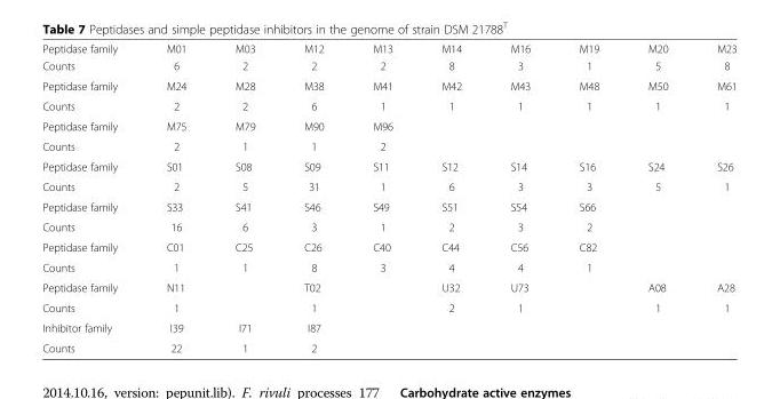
<table><thead><tr><td>Peptidase family</td><td>M01</td><td>M03</td><td>M12</td><td>M13</td><td>M14</td><td>M16</td><td>M19</td><td>M20</td><td>M23</td></tr></thead><tbody><tr><td>Counts</td><td>6</td><td>2</td><td>2</td><td>2</td><td>8</td><td>3</td><td>1</td><td>5</td><td>8</td></tr><tr><td>Peptidase family</td><td>M24</td><td>M28</td><td>M38</td><td>M41</td><td>M42</td><td>M43</td><td>M48</td><td>M50</td><td>M61</td></tr><tr><td>Counts</td><td>2</td><td>2</td><td>6</td><td>1</td><td>1</td><td>1</td><td>1</td><td>1</td><td>1</td></tr><tr><td>Peptidase family</td><td>M75</td><td>M79</td><td>M90</td><td>M96</td><td></td><td></td><td></td><td></td><td></td></tr><tr><td>Counts</td><td>2</td><td>1</td><td>1</td><td>2</td><td></td><td></td><td></td><td></td><td></td></tr><tr><td>Peptidase family</td><td>S01</td><td>S08</td><td>S09</td><td>S11</td><td>S12</td><td>S14</td><td>S16</td><td>S24</td><td>S26</td></tr><tr><td>Counts</td><td>2</td><td>5</td><td>31</td><td>1</td><td>6</td><td>3</td><td>3</td><td>5</td><td>1</td></tr><tr><td>Peptidase family</td><td>S33</td><td>S41</td><td>S46</td><td>S49</td><td>S51</td><td>S54</td><td>S66</td><td></td><td></td></tr><tr><td>Counts</td><td>16</td><td>6</td><td>3</td><td>1</td><td>2</td><td>3</td><td>2</td><td></td><td></td></tr><tr><td>Peptidase family</td><td>C01</td><td>C25</td><td>C26</td><td>C40</td><td>C44</td><td>C56</td><td>C82</td><td></td><td></td></tr><tr><td>Counts</td><td>1</td><td>1</td><td>8</td><td>3</td><td>4</td><td>4</td><td>1</td><td></td><td></td></tr><tr><td>Peptidase family</td><td>N11</td><td></td><td>T02</td><td></td><td>U32</td><td>U73</td><td></td><td>A08</td><td>A28</td></tr><tr><td>Counts</td><td>1</td><td></td><td>1</td><td></td><td>2</td><td>1</td><td></td><td>1</td><td>1</td></tr><tr><td>Inhibitor family</td><td>I39</td><td>I71</td><td>I87</td><td></td><td></td><td></td><td></td><td></td><td></td></tr><tr><td>Counts</td><td>22</td><td>1</td><td>2</td><td></td><td></td><td></td><td></td><td></td><td></td></tr></tbody></table>